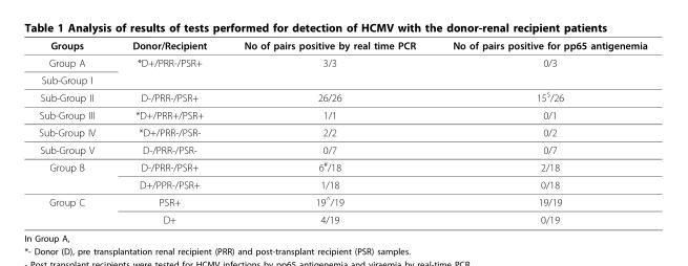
<table><thead><tr><td>Groups</td><td>Donor/Recipient</td><td>No of pairs positive by real time PCR</td><td>No of pairs positive for pp65 antigenemia</td></tr></thead><tbody><tr><td>Group A</td><td>*D+/PRR-/PSR+</td><td>3/3</td><td>0/3</td></tr><tr><td colspan="4">Sub-Group I</td></tr><tr><td>Sub-Group II</td><td>D-/PRR-/PSR+</td><td>26/26</td><td>15<sup>$</sup>/26</td></tr><tr><td>Sub-Group III</td><td>*D+/PRR+/PSR+</td><td>1/1</td><td>0/1</td></tr><tr><td>Sub-Group IV</td><td>*D+/PRR-/PSR-</td><td>2/2</td><td>0/2</td></tr><tr><td>Sub-Group V</td><td>D-/PRR-/PSR-</td><td>0/7</td><td>0/7</td></tr><tr><td rowspan="2">Group B</td><td>D-/PRR-/PSR+</td><td>6<sup>#</sup>/18</td><td>2/18</td></tr><tr><td>D+/PPR-/PSR+</td><td>1/18</td><td>0/18</td></tr><tr><td rowspan="2">Group C</td><td>PSR+</td><td>19<sup>^</sup>/19</td><td>19/19</td></tr><tr><td>D+</td><td>4/19</td><td>0/19</td></tr></tbody></table>